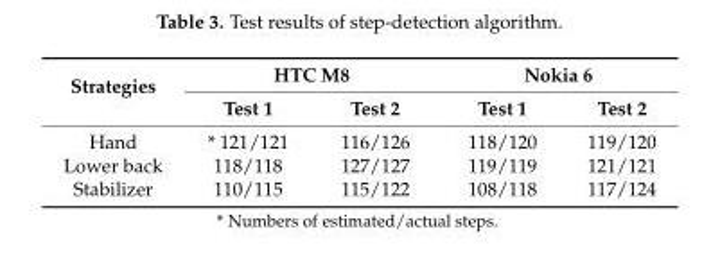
<table><thead><tr><td rowspan="2">Strategies</td><td colspan="2">HTC M8</td><td colspan="2">Nokia 6</td></tr><tr><td>Test 1</td><td>Test 2</td><td>Test 1</td><td>Test 2</td></tr></thead><tbody><tr><td>Hand</td><td>* 121/121</td><td>116/126</td><td>118/120</td><td>119/120</td></tr><tr><td>Lower back</td><td>118/118</td><td>127/127</td><td>119/119</td><td>121/121</td></tr><tr><td>Stabilizer</td><td>110/115</td><td>115/122</td><td>108/118</td><td>117/124</td></tr></tbody></table>